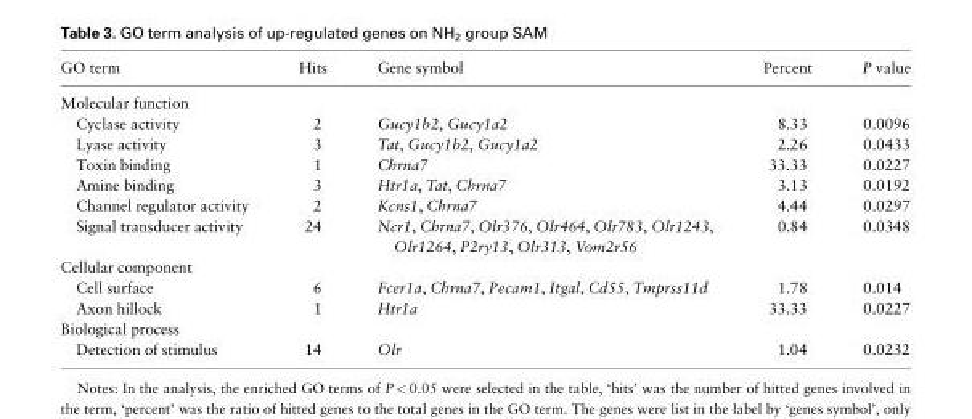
<table><thead><tr><td>GO term</td><td>Hits</td><td>Gene symbol</td><td>Percent</td><td>P value</td></tr></thead><tbody><tr><td colspan="5">Molecular function</td></tr><tr><td>Cyclase activity</td><td>2</td><td>Gucy1b2, Gucy1a2</td><td>8.33</td><td>0.0096</td></tr><tr><td>Lyase activity</td><td>3</td><td>Tat, Gucy1b2, Gucy1a2</td><td>2.26</td><td>0.0433</td></tr><tr><td>Toxin binding</td><td>1</td><td>Chrna7</td><td>33.33</td><td>0.0227</td></tr><tr><td>Amine binding</td><td>3</td><td>Htr1a, Tat, Chrna7</td><td>3.13</td><td>0.0192</td></tr><tr><td>Channel regulator activity</td><td>2</td><td>Kcns1, Chrna7</td><td>4.44</td><td>0.0297</td></tr><tr><td>Signal transducer activity</td><td>24</td><td>Ncr1, Chrna7, Olr376, Olr464, Olr783, Olr1243, Olr1264, P2ry13, Olr313, Vom2r56</td><td>0.84</td><td>0.0348</td></tr><tr><td colspan="5">Cellular component</td></tr><tr><td>Cell surface</td><td>6</td><td>Fcer1a, Chrna7, Pecam1, Itgal, Cd55, Tmprss11d</td><td>1.78</td><td>0.014</td></tr><tr><td>Axon hillock</td><td>1</td><td>Htr1a</td><td>33.33</td><td>0.0227</td></tr><tr><td colspan="5">Biological process</td></tr><tr><td>Detection of stimulus</td><td>14</td><td>Olr</td><td>1.04</td><td>0.0232</td></tr></tbody></table>